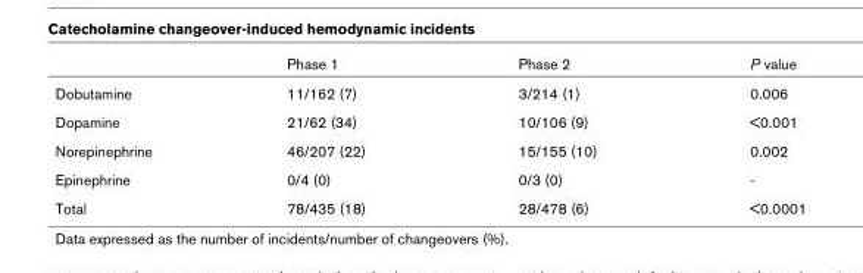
<table><thead><tr><td></td><td>Phase 1</td><td>Phase 2</td><td>P value</td></tr></thead><tbody><tr><td>Dobutamine</td><td>11/162 (7)</td><td>3/214 (1)</td><td>0.006</td></tr><tr><td>Dopamine</td><td>21/62 (34)</td><td>10/106 (9)</td><td>&lt;0.001</td></tr><tr><td>Norepinephrine</td><td>46/207 (22)</td><td>15/155 (10)</td><td>0.002</td></tr><tr><td>Epinephrine</td><td>0/4 (0)</td><td>0/3 (0)</td><td>-</td></tr><tr><td>Total</td><td>78/435 (18)</td><td>28/478 (6)</td><td>&lt;0.0001</td></tr></tbody></table>